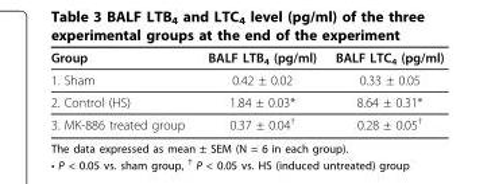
<table><thead><tr><td>Group</td><td>BALF LTB<sub>4</sub> (pg/ml)</td><td>BALF LTC<sub>4</sub> (pg/ml)</td></tr></thead><tbody><tr><td>1. Sham</td><td>0.42 ± 0.02</td><td>0.33 ± 0.05</td></tr><tr><td>2. Control (HS)</td><td>1.84 ± 0.03*</td><td>8.64 ± 0.31*</td></tr><tr><td>3. MK-886 treated group</td><td>0.37 ± 0.04<sup>†</sup></td><td>0.28 ± 0.05<sup>†</sup></td></tr></tbody></table>